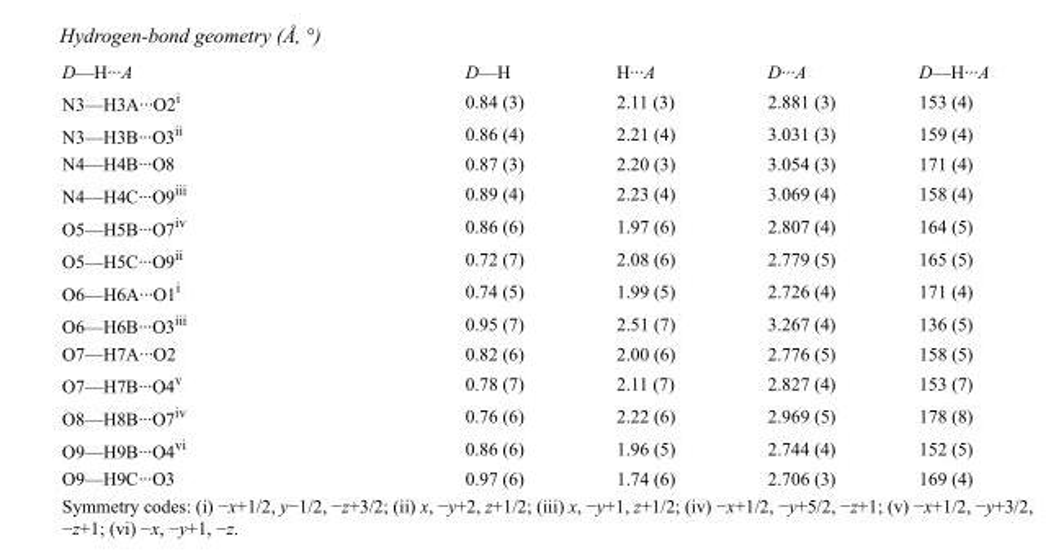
<table><tbody><tr><td>D—H···A</td><td>D—H</td><td>H···A</td><td>D···A</td><td>D—H···A</td></tr><tr><td>N3—H3A···O2<sup>i</sup></td><td>0.84 (3)</td><td>2.11 (3)</td><td>2.881 (3)</td><td>153 (4)</td></tr><tr><td>N3—H3B···O3<sup>ii</sup></td><td>0.86 (4)</td><td>2.21 (4)</td><td>3.031 (3)</td><td>159 (4)</td></tr><tr><td>N4—H4B···O8</td><td>0.87 (3)</td><td>2.20 (3)</td><td>3.054 (3)</td><td>171 (4)</td></tr><tr><td>N4—H4C···O9<sup>iii</sup></td><td>0.89 (4)</td><td>2.23 (4)</td><td>3.069 (4)</td><td>158 (4)</td></tr><tr><td>O5—H5B···O7<sup>iv</sup></td><td>0.86 (6)</td><td>1.97 (6)</td><td>2.807 (4)</td><td>164 (5)</td></tr><tr><td>O5—H5C···O9<sup>ii</sup></td><td>0.72 (7)</td><td>2.08 (6)</td><td>2.779 (5)</td><td>165 (5)</td></tr><tr><td>O6—H6A···O1<sup>i</sup></td><td>0.74 (5)</td><td>1.99 (5)</td><td>2.726 (4)</td><td>171 (4)</td></tr><tr><td>O6—H6B···O3<sup>iii</sup></td><td>0.95 (7)</td><td>2.51 (7)</td><td>3.267 (4)</td><td>136 (5)</td></tr><tr><td>O7—H7A···O2</td><td>0.82 (6)</td><td>2.00 (6)</td><td>2.776 (5)</td><td>158 (5)</td></tr><tr><td>O7—H7B···O4<sup>v</sup></td><td>0.78 (7)</td><td>2.11 (7)</td><td>2.827 (4)</td><td>153 (7)</td></tr><tr><td>O8—H8B···O7<sup>iv</sup></td><td>0.76 (6)</td><td>2.22 (6)</td><td>2.969 (5)</td><td>178 (8)</td></tr><tr><td>O9—H9B···O4<sup>vi</sup></td><td>0.86 (6)</td><td>1.96 (5)</td><td>2.744 (4)</td><td>152 (5)</td></tr><tr><td>O9—H9C···O3</td><td>0.97 (6)</td><td>1.74 (6)</td><td>2.706 (3)</td><td>169 (4)</td></tr></tbody></table>